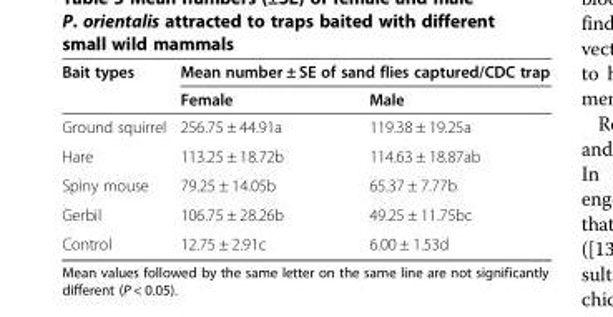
<table><thead><tr><td rowspan="2">Bait types</td><td colspan="2">Mean number ± SE of sand flies captured/CDC trap</td></tr><tr><td>Female</td><td>Male</td></tr></thead><tbody><tr><td>Ground squirrel</td><td>256.75 ± 44.91a</td><td>119.38 ± 19.25a</td></tr><tr><td>Hare</td><td>113.25 ± 18.72b</td><td>114.63 ± 18.87ab</td></tr><tr><td>Spiny mouse</td><td>79.25 ± 14.05b</td><td>65.37 ± 7.77b</td></tr><tr><td>Gerbil</td><td>106.75 ± 28.26b</td><td>49.25 ± 11.75bc</td></tr><tr><td>Control</td><td>12.75 ± 2.91c</td><td>6.00 ± 1.53d</td></tr></tbody></table>